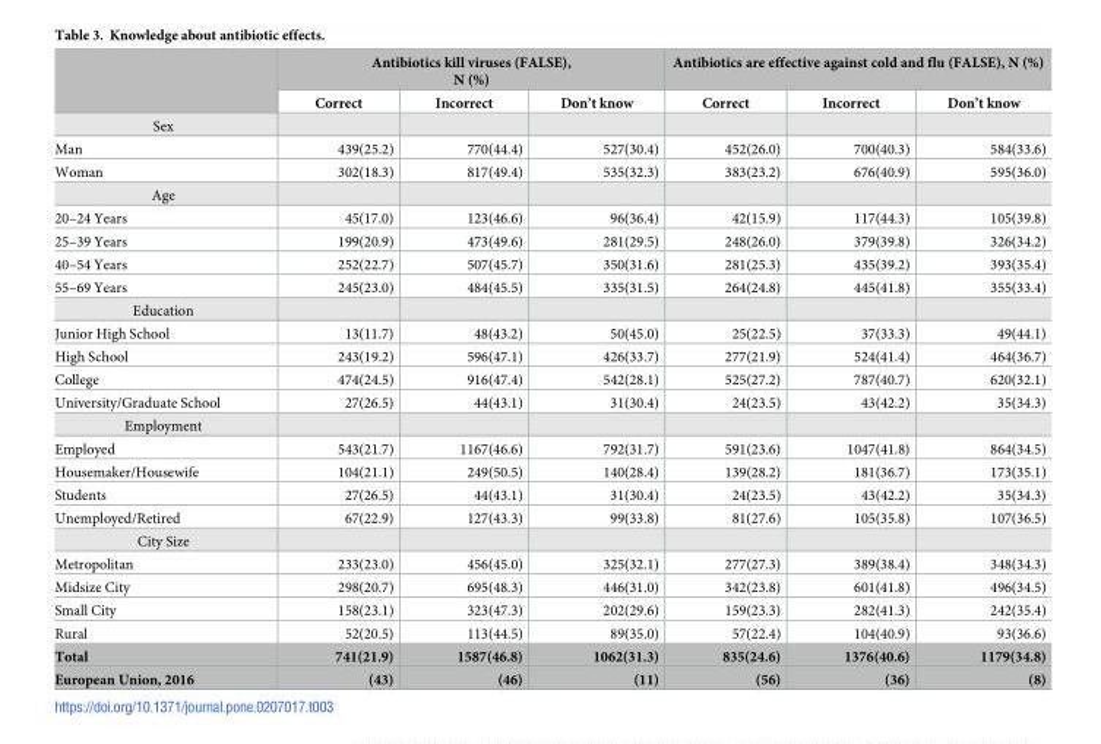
<table><thead><tr><td rowspan="2"></td><td colspan="3">Antibiotics kill viruses (FALSE), N (%)</td><td colspan="3">Antibiotics are effective against cold and flu (FALSE), N (%)</td></tr><tr><td>Correct</td><td>Incorrect</td><td>Don’t know</td><td>Correct</td><td>Incorrect</td><td>Don’t know</td></tr></thead><tbody><tr><td colspan="7">Sex</td></tr><tr><td>Man</td><td>439(25.2)</td><td>770(44.4)</td><td>527(30.4)</td><td>452(26.0)</td><td>700(40.3)</td><td>584(33.6)</td></tr><tr><td>Woman</td><td>302(18.3)</td><td>817(49.4)</td><td>535(32.3)</td><td>383(23.2)</td><td>676(40.9)</td><td>595(36.0)</td></tr><tr><td colspan="7">Age</td></tr><tr><td>20–24 Years</td><td>45(17.0)</td><td>123(46.6)</td><td>96(36.4)</td><td>42(15.9)</td><td>117(44.3)</td><td>105(39.8)</td></tr><tr><td>25–39 Years</td><td>199(20.9)</td><td>473(49.6)</td><td>281(29.5)</td><td>248(26.0)</td><td>379(39.8)</td><td>326(34.2)</td></tr><tr><td>40–54 Years</td><td>252(22.7)</td><td>507(45.7)</td><td>350(31.6)</td><td>281(25.3)</td><td>435(39.2)</td><td>393(35.4)</td></tr><tr><td>55–69 Years</td><td>245(23.0)</td><td>484(45.5)</td><td>335(31.5)</td><td>264(24.8)</td><td>445(41.8)</td><td>355(33.4)</td></tr><tr><td colspan="7">Education</td></tr><tr><td>Junior High School</td><td>13(11.7)</td><td>48(43.2)</td><td>50(45.0)</td><td>25(22.5)</td><td>37(33.3)</td><td>49(44.1)</td></tr><tr><td>High School</td><td>243(19.2)</td><td>596(47.1)</td><td>426(33.7)</td><td>277(21.9)</td><td>524(41.4)</td><td>464(36.7)</td></tr><tr><td>College</td><td>474(24.5)</td><td>916(47.4)</td><td>542(28.1)</td><td>525(27.2)</td><td>787(40.7)</td><td>620(32.1)</td></tr><tr><td>University/Graduate School</td><td>27(26.5)</td><td>44(43.1)</td><td>31(30.4)</td><td>24(23.5)</td><td>43(42.2)</td><td>35(34.3)</td></tr><tr><td colspan="7">Employment</td></tr><tr><td>Employed</td><td>543(21.7)</td><td>1167(46.6)</td><td>792(31.7)</td><td>591(23.6)</td><td>1047(41.8)</td><td>864(34.5)</td></tr><tr><td>Housemaker/Housewife</td><td>104(21.1)</td><td>249(50.5)</td><td>140(28.4)</td><td>139(28.2)</td><td>181(36.7)</td><td>173(35.1)</td></tr><tr><td>Students</td><td>27(26.5)</td><td>44(43.1)</td><td>31(30.4)</td><td>24(23.5)</td><td>43(42.2)</td><td>35(34.3)</td></tr><tr><td>Unemployed/Retired</td><td>67(22.9)</td><td>127(43.3)</td><td>99(33.8)</td><td>81(27.6)</td><td>105(35.8)</td><td>107(36.5)</td></tr><tr><td colspan="7">City Size</td></tr><tr><td>Metropolitan</td><td>233(23.0)</td><td>456(45.0)</td><td>325(32.1)</td><td>277(27.3)</td><td>389(38.4)</td><td>348(34.3)</td></tr><tr><td>Midsize City</td><td>298(20.7)</td><td>695(48.3)</td><td>446(31.0)</td><td>342(23.8)</td><td>601(41.8)</td><td>496(34.5)</td></tr><tr><td>Small City</td><td>158(23.1)</td><td>323(47.3)</td><td>202(29.6)</td><td>159(23.3)</td><td>282(41.3)</td><td>242(35.4)</td></tr><tr><td>Rural</td><td>52(20.5)</td><td>113(44.5)</td><td>89(35.0)</td><td>57(22.4)</td><td>104(40.9)</td><td>93(36.6)</td></tr><tr><td>Total</td><td>741(21.9)</td><td>1587(46.8)</td><td>1062(31.3)</td><td>835(24.6)</td><td>1376(40.6)</td><td>1179(34.8)</td></tr><tr><td>European Union, 2016</td><td>(43)</td><td>(46)</td><td>(11)</td><td>(56)</td><td>(36)</td><td>(8)</td></tr></tbody></table>